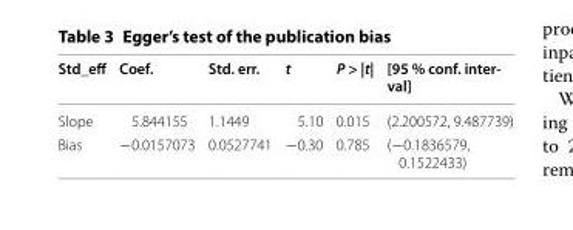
<table><thead><tr><td>Std_eff</td><td>Coef.</td><td>Std. err.</td><td>t</td><td>P &gt; |t|</td><td>[95 % conf. inter‑ val]</td></tr></thead><tbody><tr><td>Slope</td><td>5.844155</td><td>1.1449</td><td>5.10</td><td>0.015</td><td>(2.200572, 9.487739)</td></tr><tr><td>Bias</td><td>−0.0157073</td><td>0.0527741</td><td>−0.30</td><td>0.785</td><td>(−0.1836579, 0.1522433)</td></tr></tbody></table>